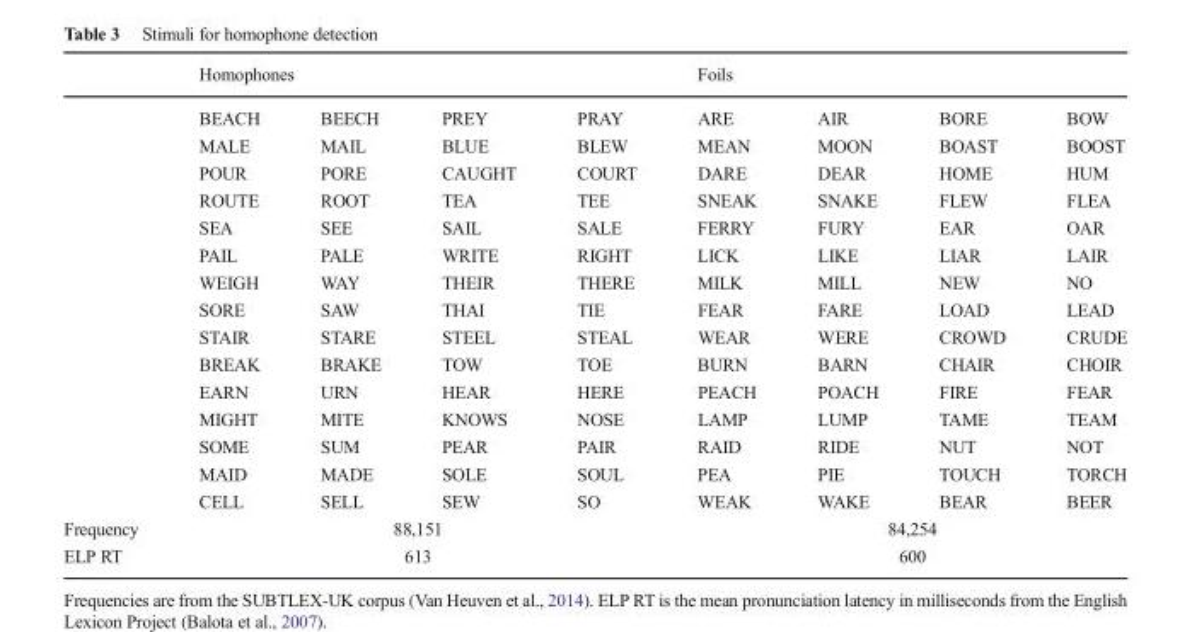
<table><thead><tr><td rowspan="2"></td><td colspan="4">Homophones</td><td colspan="4">Foils</td></tr><tr><td>BEACH</td><td>BEECH</td><td>PREY</td><td>PRAY</td><td>ARE</td><td>AIR</td><td>BORE</td><td>BOW</td></tr></thead><tbody><tr><td></td><td>MALE</td><td>MAIL</td><td>BLUE</td><td>BLEW</td><td>MEAN</td><td>MOON</td><td>BOAST</td><td>BOOST</td></tr><tr><td></td><td>POUR</td><td>PORE</td><td>CAUGHT</td><td>COURT</td><td>DARE</td><td>DEAR</td><td>HOME</td><td>HUM</td></tr><tr><td></td><td>ROUTE</td><td>ROOT</td><td>TEA</td><td>TEE</td><td>SNEAK</td><td>SNAKE</td><td>FLEW</td><td>FLEA</td></tr><tr><td></td><td>SEA</td><td>SEE</td><td>SAIL</td><td>SALE</td><td>FERRY</td><td>FURY</td><td>EAR</td><td>OAR</td></tr><tr><td></td><td>PAIL</td><td>PALE</td><td>WRITE</td><td>RIGHT</td><td>LICK</td><td>LIKE</td><td>LIAR</td><td>LAIR</td></tr><tr><td></td><td>WEIGH</td><td>WAY</td><td>THEIR</td><td>THERE</td><td>MILK</td><td>MILL</td><td>NEW</td><td>NO</td></tr><tr><td></td><td>SORE</td><td>SAW</td><td>THAI</td><td>TIE</td><td>FEAR</td><td>FARE</td><td>LOAD</td><td>LEAD</td></tr><tr><td></td><td>STAIR</td><td>STARE</td><td>STEEL</td><td>STEAL</td><td>WEAR</td><td>WERE</td><td>CROWD</td><td>CRUDE</td></tr><tr><td></td><td>BREAK</td><td>BRAKE</td><td>TOW</td><td>TOE</td><td>BURN</td><td>BARN</td><td>CHAIR</td><td>CHOIR</td></tr><tr><td></td><td>EARN</td><td>URN</td><td>HEAR</td><td>HERE</td><td>PEACH</td><td>POACH</td><td>FIRE</td><td>FEAR</td></tr><tr><td></td><td>MIGHT</td><td>MITE</td><td>KNOWS</td><td>NOSE</td><td>LAMP</td><td>LUMP</td><td>TAME</td><td>TEAM</td></tr><tr><td></td><td>SOME</td><td>SUM</td><td>PEAR</td><td>PAIR</td><td>RAID</td><td>RIDE</td><td>NUT</td><td>NOT</td></tr><tr><td></td><td>MAID</td><td>MADE</td><td>SOLE</td><td>SOUL</td><td>PEA</td><td>PIE</td><td>TOUCH</td><td>TORCH</td></tr><tr><td></td><td>CELL</td><td>SELL</td><td>SEW</td><td>SO</td><td>WEAK</td><td>WAKE</td><td>BEAR</td><td>BEER</td></tr><tr><td>Frequency</td><td colspan="4">88,151</td><td colspan="4">84,254</td></tr><tr><td>ELP RT</td><td colspan="4">613</td><td colspan="4">600</td></tr></tbody></table>